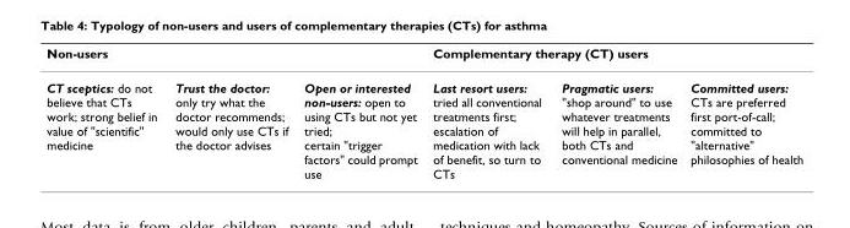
<table><thead><tr><td colspan="3">Non-users</td><td colspan="3">Complementary therapy (CT) users</td></tr><tr><td>CT sceptics: do not believe that CTs work; strong belief in value of &quot;scientific&quot; medicine</td><td>Trust the doctor: only try what the doctor recommends; would only use CTs if the doctor advises</td><td>Open or interested non-users: open to using CTs but not yet tried; certain &quot;trigger factors&quot; could prompt use</td><td>Last resort users: tried all conventional treatments first; escalation of medication with lack of benefit, so turn to CTs</td><td>Pragmatic users: &quot;shop around&quot; to use whatever treatments will help in parallel, both CTs and conventional medicine</td><td>Committed users: CTs are preferred first port-of-call; committed to &quot;alternative&quot; philosophies of health</td></tr></thead><tbody></tbody></table>